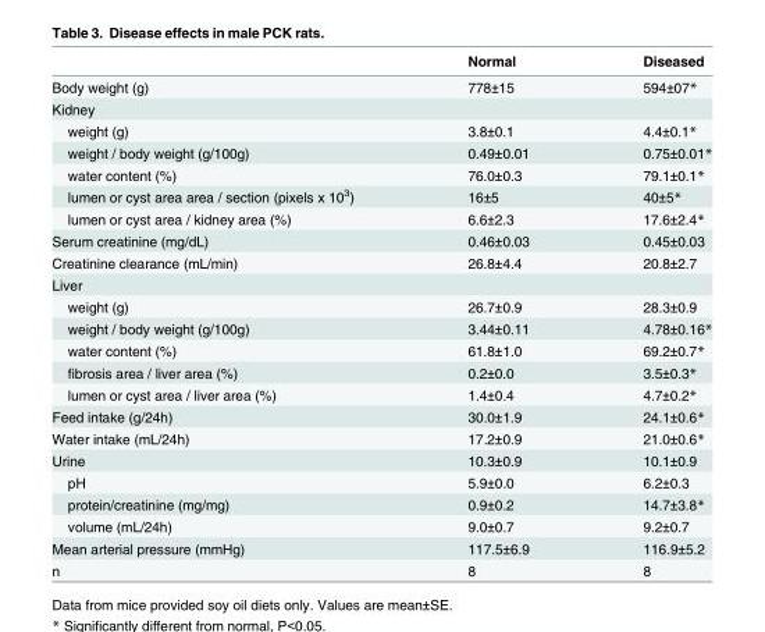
<table><thead><tr><td></td><td>Normal</td><td>Diseased</td></tr></thead><tbody><tr><td>Body weight (g)</td><td>778±15</td><td>594±07*</td></tr><tr><td colspan="3">Kidney</td></tr><tr><td>weight (g)</td><td>3.8±0.1</td><td>4.4±0.1*</td></tr><tr><td>weight / body weight (g/100g)</td><td>0.49±0.01</td><td>0.75±0.01*</td></tr><tr><td>water content (%)</td><td>76.0±0.3</td><td>79.1±0.1*</td></tr><tr><td>lumen or cyst area area / section (pixels x 10<sup>3</sup>)</td><td>16±5</td><td>40±5*</td></tr><tr><td>lumen or cyst area / kidney area (%)</td><td>6.6±2.3</td><td>17.6±2.4*</td></tr><tr><td>Serum creatinine (mg/dL)</td><td>0.46±0.03</td><td>0.45±0.03</td></tr><tr><td>Creatinine clearance (mL/min)</td><td>26.8±4.4</td><td>20.8±2.7</td></tr><tr><td colspan="3">Liver</td></tr><tr><td>weight (g)</td><td>26.7±0.9</td><td>28.3±0.9</td></tr><tr><td>weight / body weight (g/100g)</td><td>3.44±0.11</td><td>4.78±0.16*</td></tr><tr><td>water content (%)</td><td>61.8±1.0</td><td>69.2±0.7*</td></tr><tr><td>fibrosis area / liver area (%)</td><td>0.2±0.0</td><td>3.5±0.3*</td></tr><tr><td>lumen or cyst area / liver area (%)</td><td>1.4±0.4</td><td>4.7±0.2*</td></tr><tr><td>Feed intake (g/24h)</td><td>30.0±1.9</td><td>24.1±0.6*</td></tr><tr><td>Water intake (mL/24h)</td><td>17.2±0.9</td><td>21.0±0.6*</td></tr><tr><td>Urine</td><td>10.3±0.9</td><td>10.1±0.9</td></tr><tr><td>pH</td><td>5.9±0.0</td><td>6.2±0.3</td></tr><tr><td>protein/creatinine (mg/mg)</td><td>0.9±0.2</td><td>14.7±3.8*</td></tr><tr><td>volume (mL/24h)</td><td>9.0±0.7</td><td>9.2±0.7</td></tr><tr><td>Mean arterial pressure (mmHg)</td><td>117.5±6.9</td><td>116.9±5.2</td></tr><tr><td>n</td><td>8</td><td>8</td></tr></tbody></table>